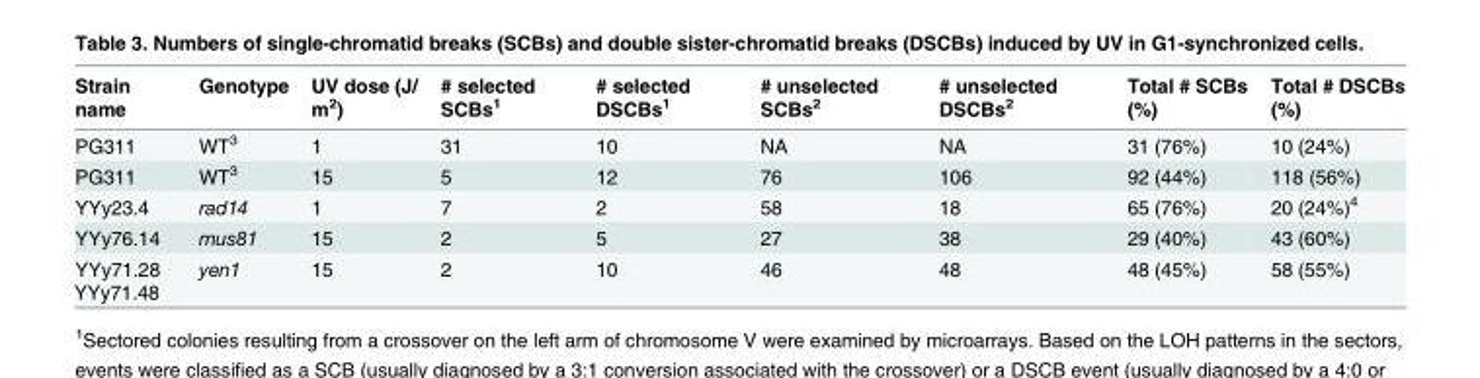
<table><thead><tr><td>Strain name</td><td>Genotype</td><td>UV dose (J/ m<sup>2</sup>)</td><td># selected SCBs<sup>1</sup></td><td># selected DSCBs<sup>1</sup></td><td># unselected SCBs<sup>2</sup></td><td># unselected DSCBs<sup>2</sup></td><td>Total # SCBs (%)</td><td>Total # DSCBs (%)</td></tr></thead><tbody><tr><td>PG311</td><td>WT<sup>3</sup></td><td>1</td><td>31</td><td>10</td><td>NA</td><td>NA</td><td>31 (76%)</td><td>10 (24%)</td></tr><tr><td>PG311</td><td>WT<sup>3</sup></td><td>15</td><td>5</td><td>12</td><td>76</td><td>106</td><td>92 (44%)</td><td>118 (56%)</td></tr><tr><td>YYy23.4</td><td>rad14</td><td>1</td><td>7</td><td>2</td><td>58</td><td>18</td><td>65 (76%)</td><td>20 (24%)<sup>4</sup></td></tr><tr><td>YYy76.14</td><td>mus81</td><td>15</td><td>2</td><td>5</td><td>27</td><td>38</td><td>29 (40%)</td><td>43 (60%)</td></tr><tr><td>YYy71.28 YYy71.48</td><td>yen1</td><td>15</td><td>2</td><td>10</td><td>46</td><td>48</td><td>48 (45%)</td><td>58 (55%)</td></tr></tbody></table>